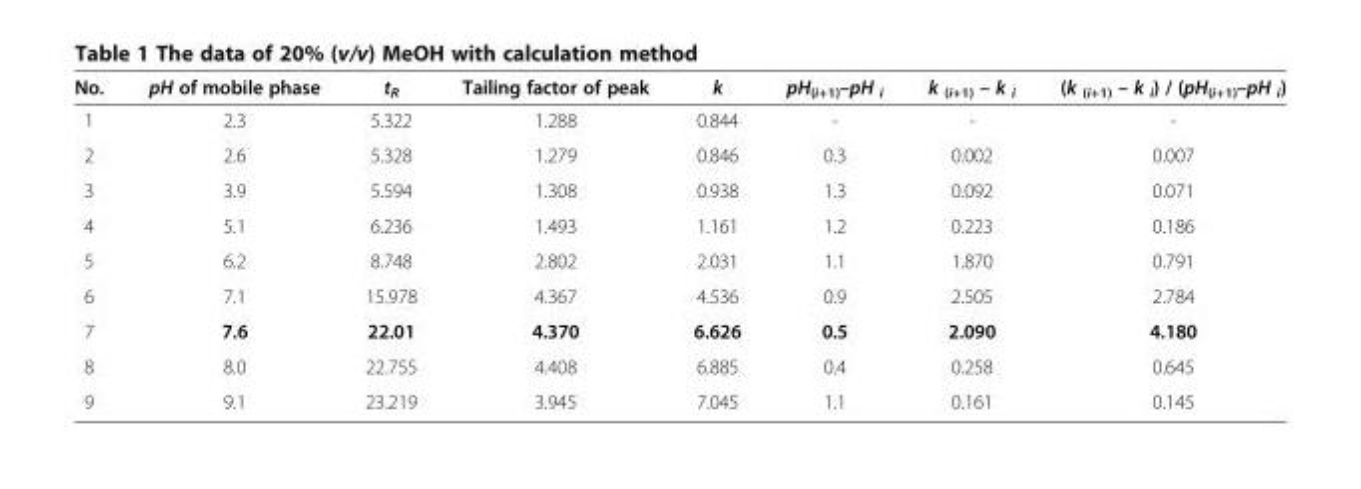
<table><thead><tr><td>No.</td><td>pH of mobile phase</td><td>t<sub>R</sub></td><td>Tailing factor of peak</td><td>k</td><td>pH<sub>(i+1)</sub>–pH <sub>i</sub></td><td>k <sub>(i+1)</sub> – k <sub>i</sub></td><td>(k <sub>(i+1)</sub> – k <sub>i</sub>) / (pH<sub>(i+1)</sub>–pH <sub>i</sub>)</td></tr></thead><tbody><tr><td>1</td><td>2.3</td><td>5.322</td><td>1.288</td><td>0.844</td><td>-</td><td>-</td><td>-</td></tr><tr><td>2</td><td>2.6</td><td>5.328</td><td>1.279</td><td>0.846</td><td>0.3</td><td>0.002</td><td>0.007</td></tr><tr><td>3</td><td>3.9</td><td>5.594</td><td>1.308</td><td>0.938</td><td>1.3</td><td>0.092</td><td>0.071</td></tr><tr><td>4</td><td>5.1</td><td>6.236</td><td>1.493</td><td>1.161</td><td>1.2</td><td>0.223</td><td>0.186</td></tr><tr><td>5</td><td>6.2</td><td>8.748</td><td>2.802</td><td>2.031</td><td>1.1</td><td>1.870</td><td>0.791</td></tr><tr><td>6</td><td>7.1</td><td>15.978</td><td>4.367</td><td>4.536</td><td>0.9</td><td>2.505</td><td>2.784</td></tr><tr><td>7</td><td>7.6</td><td>22.01</td><td>4.370</td><td>6.626</td><td>0.5</td><td>2.090</td><td>4.180</td></tr><tr><td>8</td><td>8.0</td><td>22.755</td><td>4.408</td><td>6.885</td><td>0.4</td><td>0.258</td><td>0.645</td></tr><tr><td>9</td><td>9.1</td><td>23.219</td><td>3.945</td><td>7.045</td><td>1.1</td><td>0.161</td><td>0.145</td></tr></tbody></table>